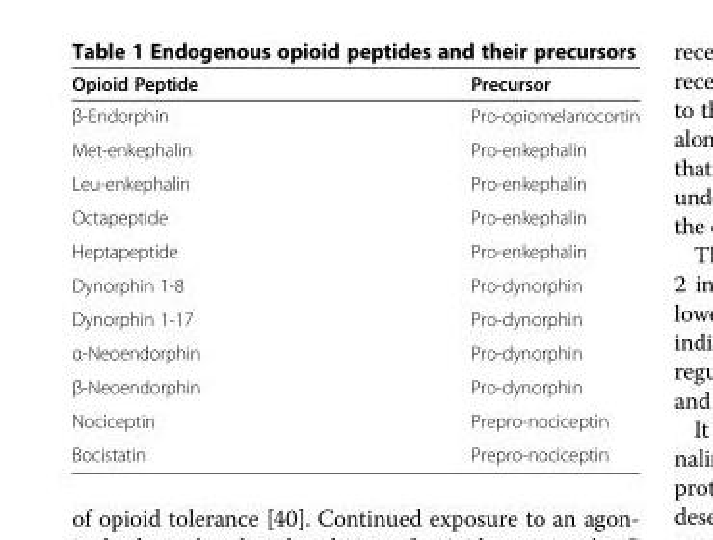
<table><thead><tr><td>Opioid Peptide</td><td>Precursor</td></tr></thead><tbody><tr><td>β-Endorphin</td><td>Pro-opiomelanocortin</td></tr><tr><td>Met-enkephalin</td><td>Pro-enkephalin</td></tr><tr><td>Leu-enkephalin</td><td>Pro-enkephalin</td></tr><tr><td>Octapeptide</td><td>Pro-enkephalin</td></tr><tr><td>Heptapeptide</td><td>Pro-enkephalin</td></tr><tr><td>Dynorphin 1-8</td><td>Pro-dynorphin</td></tr><tr><td>Dynorphin 1-17</td><td>Pro-dynorphin</td></tr><tr><td>α-Neoendorphin</td><td>Pro-dynorphin</td></tr><tr><td>β-Neoendorphin</td><td>Pro-dynorphin</td></tr><tr><td>Nociceptin</td><td>Prepro-nociceptin</td></tr><tr><td>Bocistatin</td><td>Prepro-nociceptin</td></tr></tbody></table>